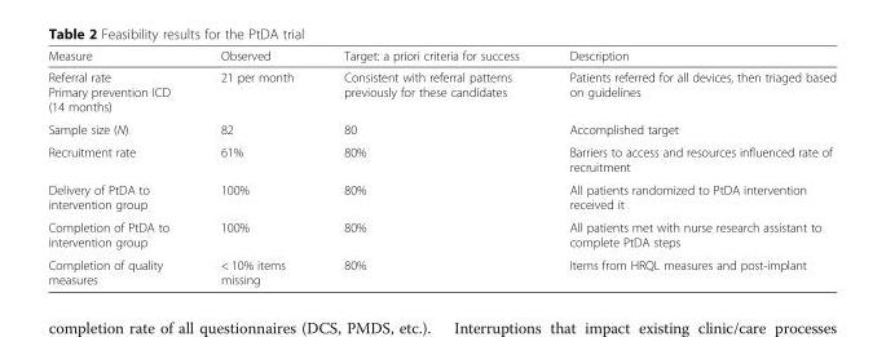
<table><thead><tr><td>Measure</td><td>Observed</td><td>Target: a priori criteria for success</td><td>Description</td></tr></thead><tbody><tr><td>Referral rate Primary prevention ICD (14 months)</td><td>21 per month</td><td>Consistent with referral patterns previously for these candidates</td><td>Patients referred for all devices, then triaged based on guidelines</td></tr><tr><td>Sample size (N)</td><td>82</td><td>80</td><td>Accomplished target</td></tr><tr><td>Recruitment rate</td><td>61%</td><td>80%</td><td>Barriers to access and resources influenced rate of recruitment</td></tr><tr><td>Delivery of PtDA to intervention group</td><td>100%</td><td>80%</td><td>All patients randomized to PtDA intervention received it</td></tr><tr><td>Completion of PtDA to intervention group</td><td>100%</td><td>80%</td><td>All patients met with nurse research assistant to complete PtDA steps</td></tr><tr><td>Completion of quality measures</td><td>&lt; 10% items missing</td><td>80%</td><td>Items from HRQL measures and post-implant</td></tr></tbody></table>